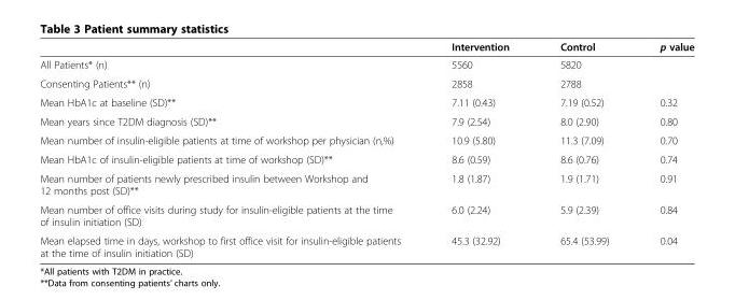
<table><thead><tr><td></td><td>Intervention</td><td>Control</td><td>p value</td></tr></thead><tbody><tr><td>All Patients* (n)</td><td>5560</td><td>5820</td><td rowspan="2"></td></tr><tr><td>Consenting Patients** (n)</td><td>2858</td><td>2788</td></tr><tr><td>Mean HbA1c at baseline (SD)**</td><td>7.11 (0.43)</td><td>7.19 (0.52)</td><td>0.32</td></tr><tr><td>Mean years since T2DM diagnosis (SD)**</td><td>7.9 (2.54)</td><td>8.0 (2.90)</td><td>0.80</td></tr><tr><td>Mean number of insulin-eligible patients at time of workshop per physician (n,%)</td><td>10.9 (5.80)</td><td>11.3 (7.09)</td><td>0.70</td></tr><tr><td>Mean HbA1c of insulin-eligible patients at time of workshop (SD)**</td><td>8.6 (0.59)</td><td>8.6 (0.76)</td><td>0.74</td></tr><tr><td>Mean number of patients newly prescribed insulin between Workshop and 12 months post (SD)**</td><td>1.8 (1.87)</td><td>1.9 (1.71)</td><td>0.91</td></tr><tr><td>Mean number of office visits during study for insulin-eligible patients at the time of insulin initiation (SD)</td><td>6.0 (2.24)</td><td>5.9 (2.39)</td><td>0.84</td></tr><tr><td>Mean elapsed time in days, workshop to first office visit for insulin-eligible patients at the time of insulin initiation (SD)</td><td>45.3 (32.92)</td><td>65.4 (53.99)</td><td>0.04</td></tr></tbody></table>